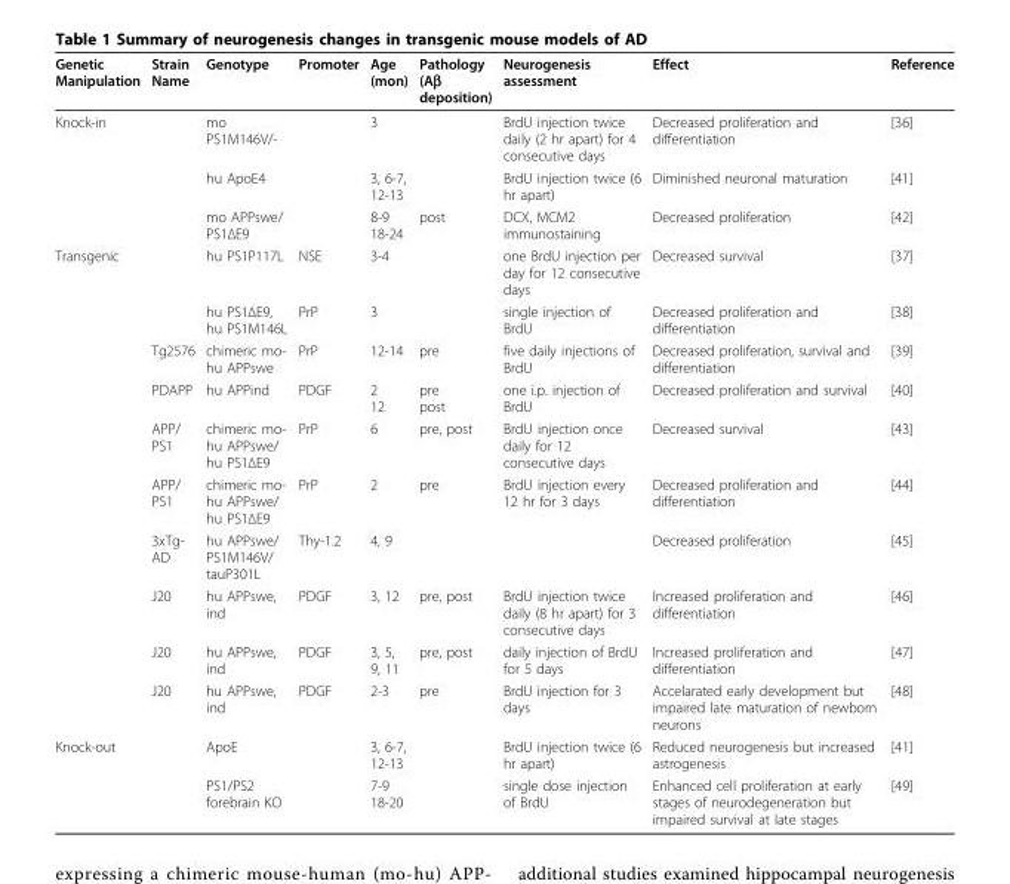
<table><thead><tr><td>Genetic Manipulation</td><td>Strain Name</td><td>Genotype</td><td>Promoter</td><td>Age (mon)</td><td>Pathology (Aβ deposition)</td><td>Neurogenesis assessment</td><td>Effect</td><td>Reference</td></tr></thead><tbody><tr><td rowspan="3">Knock-in</td><td></td><td>mo PS1M146V/-</td><td></td><td>3</td><td></td><td>BrdU injection twice daily (2 hr apart) for 4 consecutive days</td><td>Decreased proliferation and differentiation</td><td>[36]</td></tr><tr><td></td><td>hu ApoE4</td><td></td><td>3, 6-7, 12-13</td><td></td><td>BrdU injection twice (6 hr apart)</td><td>Diminished neuronal maturation</td><td>[41]</td></tr><tr><td></td><td>mo APPswe/ PS1ΔE9</td><td></td><td>8-9 18-24</td><td>post</td><td>DCX, MCM2 immunostaining</td><td>Decreased proliferation</td><td>[42]</td></tr><tr><td rowspan="10">Transgenic</td><td></td><td>hu PS1P117L</td><td>NSE</td><td>3-4</td><td></td><td>one BrdU injection per day for 12 consecutive days</td><td>Decreased survival</td><td>[37]</td></tr><tr><td></td><td>hu PS1ΔE9, hu PS1M146L</td><td>PrP</td><td>3</td><td></td><td>single injection of BrdU</td><td>Decreased proliferation and differentiation</td><td>[38]</td></tr><tr><td>Tg2576</td><td>chimeric mo- hu APPswe</td><td>PrP</td><td>12-14</td><td>pre</td><td>five daily injections of BrdU</td><td>Decreased proliferation, survival and differentiation</td><td>[39]</td></tr><tr><td>PDAPP</td><td>hu APPind</td><td>PDGF</td><td>2 12</td><td>pre post</td><td>one i.p. injection of BrdU</td><td>Decreased proliferation and survival</td><td>[40]</td></tr><tr><td>APP/ PS1</td><td>chimeric mo- hu APPswe/ hu PS1ΔE9</td><td>PrP</td><td>6</td><td>pre, post</td><td>BrdU injection once daily for 12 consecutive days</td><td>Decreased survival</td><td>[43]</td></tr><tr><td>APP/ PS1</td><td>chimeric mo- hu APPswe/ hu PS1ΔE9</td><td>PrP</td><td>2</td><td>pre</td><td>BrdU injection every 12 hr for 3 days</td><td>Decreased proliferation and differentiation</td><td>[44]</td></tr><tr><td>3xTg- AD</td><td>hu APPswe/ PS1M146V/ tauP301L</td><td>Thy-1.2</td><td>4, 9</td><td></td><td></td><td>Decreased proliferation</td><td>[45]</td></tr><tr><td>J20</td><td>hu APPswe, ind</td><td>PDGF</td><td>3, 12</td><td>pre, post</td><td>BrdU injection twice daily (8 hr apart) for 3 consecutive days</td><td>Increased proliferation and differentiation</td><td>[46]</td></tr><tr><td>J20</td><td>hu APPswe, ind</td><td>PDGF</td><td>3, 5, 9, 11</td><td>pre, post</td><td>daily injection of BrdU for 5 days</td><td>Increased proliferation and differentiation</td><td>[47]</td></tr><tr><td>J20</td><td>hu APPswe, ind</td><td>PDGF</td><td>2-3</td><td>pre</td><td>BrdU injection for 3 days</td><td>Accelarated early development but impaired late maturation of newborn neurons</td><td>[48]</td></tr><tr><td rowspan="2">Knock-out</td><td></td><td>ApoE</td><td></td><td>3, 6-7, 12-13</td><td></td><td>BrdU injection twice (6 hr apart)</td><td>Reduced neurogenesis but increased astrogenesis</td><td>[41]</td></tr><tr><td></td><td>PS1/PS2 forebrain KO</td><td></td><td>7-9 18-20</td><td></td><td>single dose injection of BrdU</td><td>Enhanced cell proliferation at early stages of neurodegeneration but impaired survival at late stages</td><td>[49]</td></tr></tbody></table>